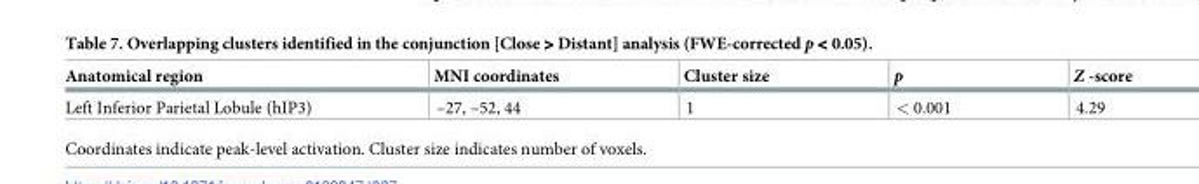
<table><thead><tr><td>Anatomical region</td><td>MNI coordinates</td><td>Cluster size</td><td>p</td><td>Z -score</td></tr></thead><tbody><tr><td>Left Inferior Parietal Lobule (hIP3)</td><td>–27, –52, 44</td><td>1</td><td>&lt; 0.001</td><td>4.29</td></tr></tbody></table>